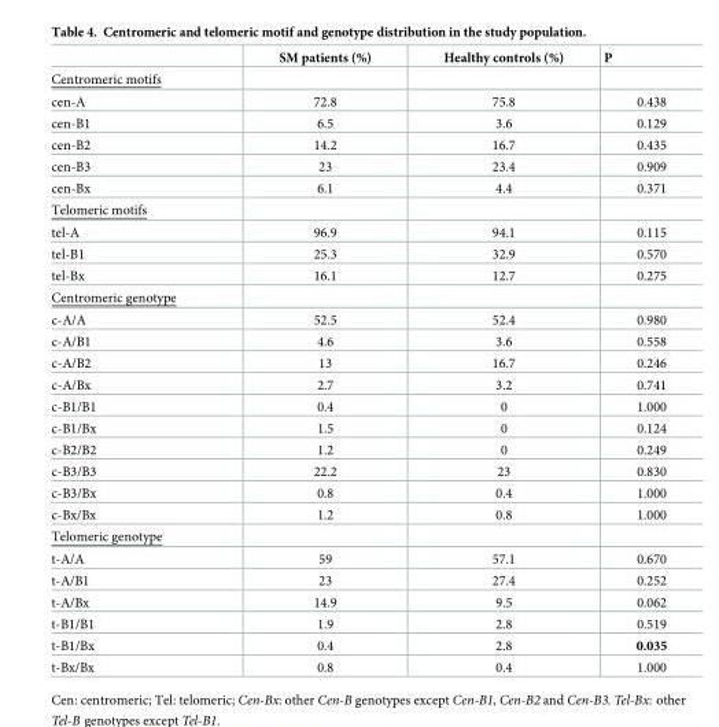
<table><thead><tr><td></td><td>SM patients (%)</td><td>Healthy controls (%)</td><td>P</td></tr></thead><tbody><tr><td colspan="4">Centromeric motifs</td></tr><tr><td>cen-A</td><td>72.8</td><td>75.8</td><td>0.438</td></tr><tr><td>cen-B1</td><td>6.5</td><td>3.6</td><td>0.129</td></tr><tr><td>cen-B2</td><td>14.2</td><td>16.7</td><td>0.435</td></tr><tr><td>cen-B3</td><td>23</td><td>23.4</td><td>0.909</td></tr><tr><td>cen-Bx</td><td>6.1</td><td>4.4</td><td>0.371</td></tr><tr><td colspan="4">Telomeric motifs</td></tr><tr><td>tel-A</td><td>96.9</td><td>94.1</td><td>0.115</td></tr><tr><td>tel-B1</td><td>25.3</td><td>32.9</td><td>0.570</td></tr><tr><td>tel-Bx</td><td>16.1</td><td>12.7</td><td>0.275</td></tr><tr><td colspan="4">Centromeric genotype</td></tr><tr><td>c-A/A</td><td>52.5</td><td>52.4</td><td>0.980</td></tr><tr><td>c-A/B1</td><td>4.6</td><td>3.6</td><td>0.558</td></tr><tr><td>c-A/B2</td><td>13</td><td>16.7</td><td>0.246</td></tr><tr><td>c-A/Bx</td><td>2.7</td><td>3.2</td><td>0.741</td></tr><tr><td>c-B1/B1</td><td>0.4</td><td>0</td><td>1.000</td></tr><tr><td>c-B1/Bx</td><td>1.5</td><td>0</td><td>0.124</td></tr><tr><td>c-B2/B2</td><td>1.2</td><td>0</td><td>0.249</td></tr><tr><td>c-B3/B3</td><td>22.2</td><td>23</td><td>0.830</td></tr><tr><td>c-B3/Bx</td><td>0.8</td><td>0.4</td><td>1.000</td></tr><tr><td>c-Bx/Bx</td><td>1.2</td><td>0.8</td><td>1.000</td></tr><tr><td colspan="4">Telomeric genotype</td></tr><tr><td>t-A/A</td><td>59</td><td>57.1</td><td>0.670</td></tr><tr><td>t-A/B1</td><td>23</td><td>27.4</td><td>0.252</td></tr><tr><td>t-A/Bx</td><td>14.9</td><td>9.5</td><td>0.062</td></tr><tr><td>t-B1/B1</td><td>1.9</td><td>2.8</td><td>0.519</td></tr><tr><td>t-B1/Bx</td><td>0.4</td><td>2.8</td><td>0.035</td></tr><tr><td>t-Bx/Bx</td><td>0.8</td><td>0.4</td><td>1.000</td></tr></tbody></table>